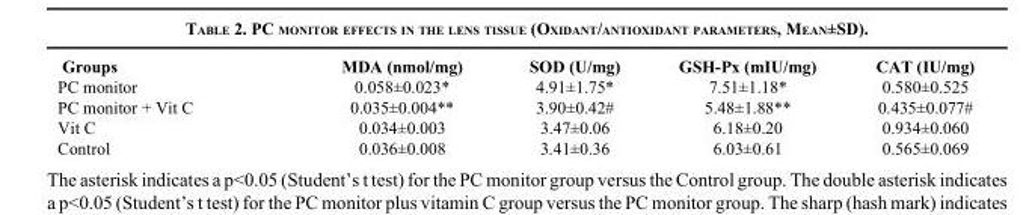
<table><thead><tr><td>Groups</td><td>MDA (nmol/mg)</td><td>SOD (U/mg)</td><td>GSH-Px (mIU/mg)</td><td>CAT (IU/mg)</td></tr></thead><tbody><tr><td>PC monitor</td><td>0.058±0.023*</td><td>4.91±1.75*</td><td>7.51±1.18*</td><td>0.580±0.525</td></tr><tr><td>PC monitor + Vit C</td><td>0.035±0.004**</td><td>3.90±0.42#</td><td>5.48±1.88**</td><td>0.435±0.077#</td></tr><tr><td>Vit C</td><td>0.034±0.003</td><td>3.47±0.06</td><td>6.18±0.20</td><td>0.934±0.060</td></tr><tr><td>Control</td><td>0.036±0.008</td><td>3.41±0.36</td><td>6.03±0.61</td><td>0.565±0.069</td></tr></tbody></table>